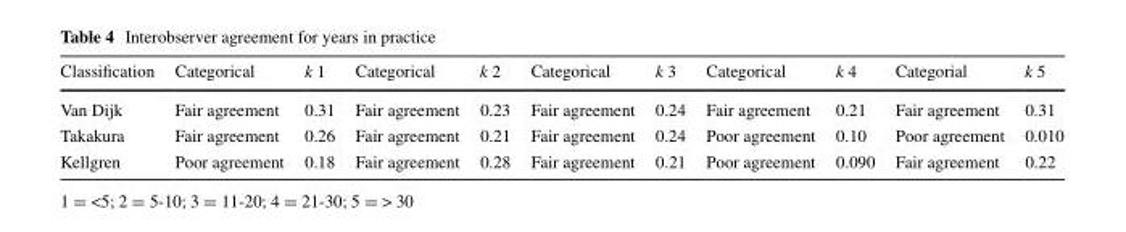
<table><thead><tr><td>Classification</td><td>Categorical</td><td>k 1</td><td>Categorical</td><td>k 2</td><td>Categorical</td><td>k 3</td><td>Categorical</td><td>k 4</td><td>Categorial</td><td>k 5</td></tr></thead><tbody><tr><td>Van Dijk</td><td>Fair agreement</td><td>0.31</td><td>Fair agreement</td><td>0.23</td><td>Fair agreement</td><td>0.24</td><td>Fair agreement</td><td>0.21</td><td>Fair agreement</td><td>0.31</td></tr><tr><td>Takakura</td><td>Fair agreement</td><td>0.26</td><td>Fair agreement</td><td>0.21</td><td>Fair agreement</td><td>0.24</td><td>Poor agreement</td><td>0.10</td><td>Poor agreement</td><td>0.010</td></tr><tr><td>Kellgren</td><td>Poor agreement</td><td>0.18</td><td>Fair agreement</td><td>0.28</td><td>Fair agreement</td><td>0.21</td><td>Poor agreement</td><td>0.090</td><td>Fair agreement</td><td>0.22</td></tr></tbody></table>